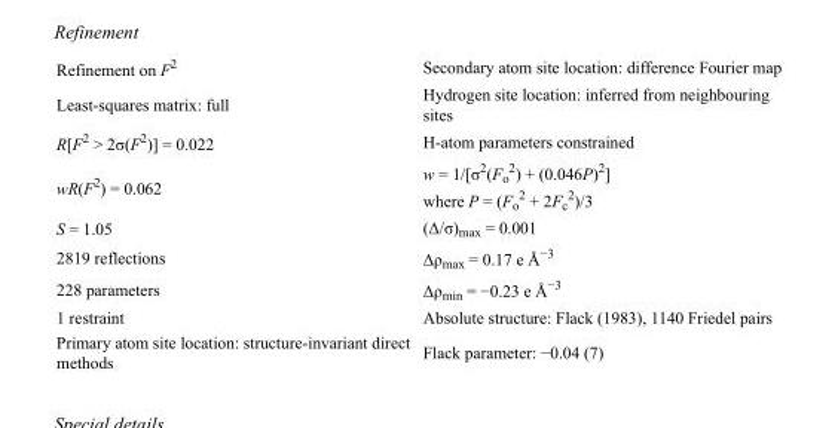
<table><tbody><tr><td>Refinement on F<sup>2</sup></td><td>Secondary atom site location: difference Fourier map</td></tr><tr><td>Least-squares matrix: full</td><td>Hydrogen site location: inferred from neighbouring sites</td></tr><tr><td>R[F<sup>2</sup> &gt; 2σ(F<sup>2</sup>)] = 0.022</td><td>H-atom parameters constrained</td></tr><tr><td>wR(F<sup>2</sup>) = 0.062</td><td>w = 1/[σ<sup>2</sup>(F<sub>o</sub> <sup>2</sup>) + (0.046P)<sup>2</sup>] where P = (F<sub>o</sub> <sup>2</sup> + 2F<sub>c</sub> <sup>2</sup>)/3</td></tr><tr><td>S = 1.05</td><td>(Δ/σ)<sub>max</sub> = 0.001</td></tr><tr><td>2819 reflections</td><td>Δρ<sub>max</sub> = 0.17 e Å<sup>−3</sup></td></tr><tr><td>228 parameters</td><td>Δρ<sub>min</sub> = −0.23 e Å<sup>−3</sup></td></tr><tr><td>1 restraint</td><td>Absolute structure: Flack (1983), 1140 Friedel pairs</td></tr><tr><td>Primary atom site location: structure-invariant direct methods</td><td>Flack parameter: −0.04 (7)</td></tr></tbody></table>